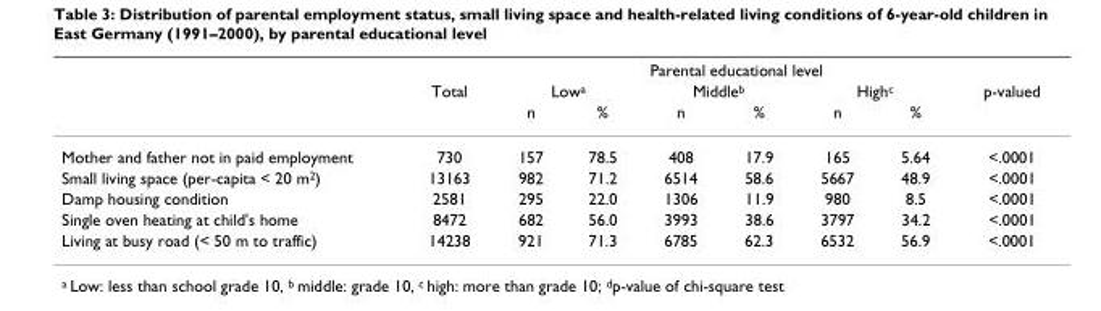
<table><thead><tr><td rowspan="3"></td><td colspan="8">Parental educational level</td></tr><tr><td rowspan="2">Total</td><td colspan="2">Low<sup>a</sup></td><td colspan="2">Middle<sup>b</sup></td><td colspan="2">High<sup>c</sup></td><td rowspan="2">p-valued</td></tr><tr><td>n</td><td>%</td><td>n</td><td>%</td><td>n</td><td>%</td></tr></thead><tbody><tr><td>Mother and father not in paid employment</td><td>730</td><td>157</td><td>78.5</td><td>408</td><td>17.9</td><td>165</td><td>5.64</td><td>&lt;.0001</td></tr><tr><td>Small living space (per-capita &lt; 20 m<sup>2</sup>)</td><td>13163</td><td>982</td><td>71.2</td><td>6514</td><td>58.6</td><td>5667</td><td>48.9</td><td>&lt;.0001</td></tr><tr><td>Damp housing condition</td><td>2581</td><td>295</td><td>22.0</td><td>1306</td><td>11.9</td><td>980</td><td>8.5</td><td>&lt;.0001</td></tr><tr><td>Single oven heating at child&#x27;s home</td><td>8472</td><td>682</td><td>56.0</td><td>3993</td><td>38.6</td><td>3797</td><td>34.2</td><td>&lt;.0001</td></tr><tr><td>Living at busy road (&lt; 50 m to traffic)</td><td>14238</td><td>921</td><td>71.3</td><td>6785</td><td>62.3</td><td>6532</td><td>56.9</td><td>&lt;.0001</td></tr></tbody></table>